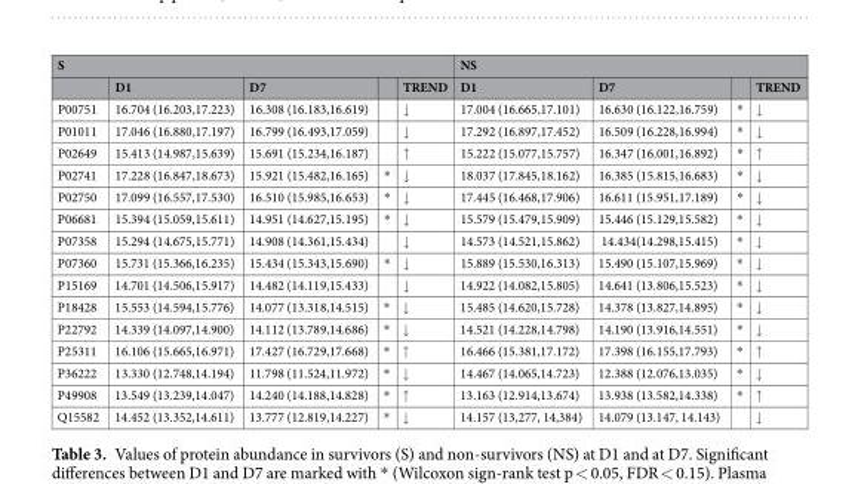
<table><thead><tr><td colspan="5">S</td><td colspan="4">NS</td></tr><tr><td></td><td>D1</td><td>D7</td><td></td><td>TREND</td><td>D1</td><td>D7</td><td></td><td>TREND</td></tr></thead><tbody><tr><td>P00751</td><td>16.704 (16.203,17.223)</td><td>16.308 (16.183,16.619)</td><td></td><td>↓</td><td>17.004 (16.665,17.101)</td><td>16.630 (16.122,16.759)</td><td>*</td><td>↓</td></tr><tr><td>P01011</td><td>17.046 (16.880,17.197)</td><td>16.799 (16.493,17.059)</td><td></td><td>↓</td><td>17.292 (16.897,17.452)</td><td>16.509 (16.228,16.994)</td><td>*</td><td>↓</td></tr><tr><td>P02649</td><td>15.413 (14.987,15.639)</td><td>15.691 (15.234,16.187)</td><td></td><td>↑</td><td>15.222 (15.077,15.757)</td><td>16.347 (16.001,16.892)</td><td>*</td><td>↑</td></tr><tr><td>P02741</td><td>17.228 (16.847,18.673)</td><td>15.921 (15.482,16.165)</td><td>*</td><td>↓</td><td>18.037 (17.845,18.162)</td><td>16.385 (15.815,16.683)</td><td>*</td><td>↓</td></tr><tr><td>P02750</td><td>17.099 (16.557,17.530)</td><td>16.510 (15.985,16.653)</td><td>*</td><td>↓</td><td>17.445 (16.468,17.906)</td><td>16.611 (15.951,17.189)</td><td>*</td><td>↓</td></tr><tr><td>P06681</td><td>15.394 (15.059,15.611)</td><td>14.951 (14.627,15.195)</td><td>*</td><td>↓</td><td>15.579 (15.479,15.909)</td><td>15.446 (15.129,15.582)</td><td>*</td><td>↓</td></tr><tr><td>P07358</td><td>15.294 (14.675,15.771)</td><td>14.908 (14.361,15.434)</td><td></td><td>↓</td><td>14.573 (14.521,15.862)</td><td>14.434(14.298,15.415)</td><td>*</td><td>↓</td></tr><tr><td>P07360</td><td>15.731 (15.366,16.235)</td><td>15.434 (15.343,15.690)</td><td>*</td><td>↓</td><td>15.889 (15.530,16.313)</td><td>15.490 (15.107,15.969)</td><td>*</td><td>↓</td></tr><tr><td>P15169</td><td>14.701 (14.506,15.917)</td><td>14.482 (14.119,15.433)</td><td></td><td>↓</td><td>14.922 (14.082,15.805)</td><td>14.641 (13.806,15.523)</td><td>*</td><td>↓</td></tr><tr><td>P18428</td><td>15.553 (14.594,15.776)</td><td>14.077 (13.318,14.515)</td><td>*</td><td>↓</td><td>15.485 (14.620,15.728)</td><td>14.378 (13.827,14.895)</td><td>*</td><td>↓</td></tr><tr><td>P22792</td><td>14.339 (14.097,14.900)</td><td>14.112 (13.789,14.686)</td><td>*</td><td>↓</td><td>14.521 (14.228,14.798)</td><td>14.190 (13.916,14.551)</td><td>*</td><td>↓</td></tr><tr><td>P25311</td><td>16.106 (15.665,16.971)</td><td>17.427 (16.729,17.668)</td><td>*</td><td>↑</td><td>16.466 (15.381,17.172)</td><td>17.398 (16.155,17.793)</td><td>*</td><td>↑</td></tr><tr><td>P36222</td><td>13.330 (12.748,14.194)</td><td>11.798 (11.524,11.972)</td><td>*</td><td>↓</td><td>14.467 (14.065,14.723)</td><td>12.388 (12.076,13.035)</td><td>*</td><td>↓</td></tr><tr><td>P49908</td><td>13.549 (13.239,14.047)</td><td>14.240 (14.188,14.828)</td><td>*</td><td>↑</td><td>13.163 (12.914,13.674)</td><td>13.938 (13.582,14.338)</td><td>*</td><td>↑</td></tr><tr><td>Q15582</td><td>14.452 (13.352,14.611)</td><td>13.777 (12.819,14.227)</td><td>*</td><td>↓</td><td>14.157 (13,277, 14,384)</td><td>14.079 (13.147, 14.143)</td><td></td><td>↓</td></tr></tbody></table>